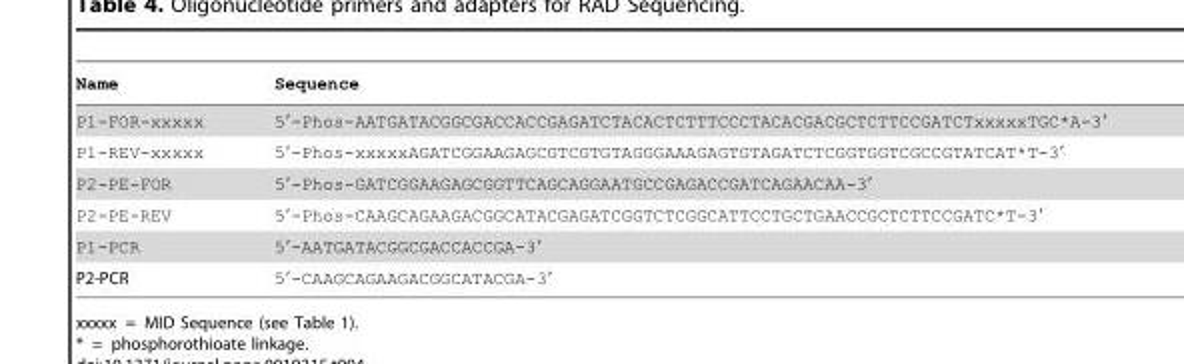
<table><thead><tr><td>Name</td><td>Sequence</td></tr></thead><tbody><tr><td>P1-FOR-xxxxx</td><td>5′-Phos-AATGATACGGCGACCACCGAGATCTACACTCTTTCCCTACACGACGCTCTTCCGATCTxxxxxTGC*A-3′</td></tr><tr><td>P1-REV-xxxxx</td><td>5′-Phos-xxxxxAGATCGGAAGAGCGTCGTGTAGGGAAAGAGTGTAGATCTCGGTGGTCGCCGTATCAT*T-3′</td></tr><tr><td>P2-PE-FOR</td><td>5′-Phos-GATCGGAAGAGCGGTTCAGCAGGAATGCCGAGACCGATCAGAACAA-3′</td></tr><tr><td>P2-PE-REV</td><td>5′-Phos-CAAGCAGAAGACGGCATACGAGATCGGTCTCGGCATTCCTGCTGAACCGCTCTTCCGATC*T-3′</td></tr><tr><td>P1-PCR</td><td>5′-AATGATACGGCGACCACCGA-3′</td></tr><tr><td>P2-PCR</td><td>5′-CAAGCAGAAGACGGCATACGA-3′</td></tr></tbody></table>